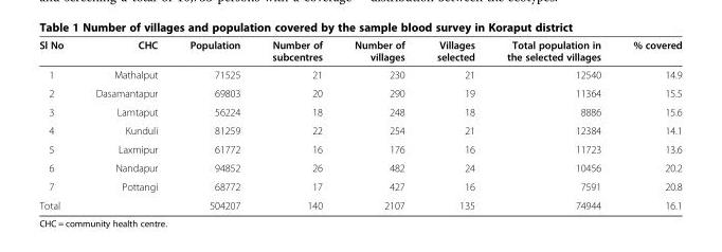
<table><thead><tr><td>Sl No</td><td>CHC</td><td>Population</td><td>Number of subcentres</td><td>Number of villages</td><td>Villages selected</td><td>Total population in the selected villages</td><td>% covered</td></tr></thead><tbody><tr><td>1</td><td>Mathalput</td><td>71525</td><td>21</td><td>230</td><td>21</td><td>12540</td><td>14.9</td></tr><tr><td>2</td><td>Dasamantapur</td><td>69803</td><td>20</td><td>290</td><td>19</td><td>11364</td><td>15.5</td></tr><tr><td>3</td><td>Lamtaput</td><td>56224</td><td>18</td><td>248</td><td>18</td><td>8886</td><td>15.6</td></tr><tr><td>4</td><td>Kunduli</td><td>81259</td><td>22</td><td>254</td><td>21</td><td>12384</td><td>14.1</td></tr><tr><td>5</td><td>Laxmipur</td><td>61772</td><td>16</td><td>176</td><td>16</td><td>11723</td><td>13.6</td></tr><tr><td>6</td><td>Nandapur</td><td>94852</td><td>26</td><td>482</td><td>24</td><td>10456</td><td>20.2</td></tr><tr><td>7</td><td>Pottangi</td><td>68772</td><td>17</td><td>427</td><td>16</td><td>7591</td><td>20.8</td></tr><tr><td colspan="2">Total</td><td>504207</td><td>140</td><td>2107</td><td>135</td><td>74944</td><td>16.1</td></tr></tbody></table>